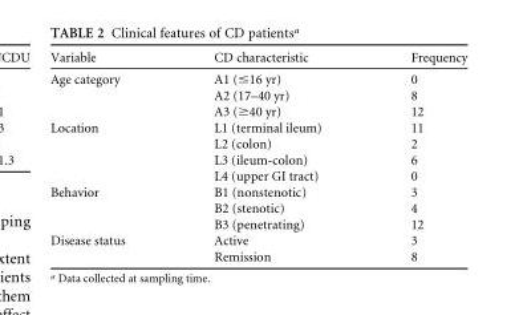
<table><thead><tr><td>Variable</td><td>CD characteristic</td><td>Frequency</td></tr></thead><tbody><tr><td rowspan="3">Age category</td><td>A1 (≤16 yr)</td><td>0</td></tr><tr><td>A2 (17–40 yr)</td><td>8</td></tr><tr><td>A3 (≥40 yr)</td><td>12</td></tr><tr><td rowspan="4">Location</td><td>L1 (terminal ileum)</td><td>11</td></tr><tr><td>L2 (colon)</td><td>2</td></tr><tr><td>L3 (ileum-colon)</td><td>6</td></tr><tr><td>L4 (upper GI tract)</td><td>0</td></tr><tr><td rowspan="3">Behavior</td><td>B1 (nonstenotic)</td><td>3</td></tr><tr><td>B2 (stenotic)</td><td>4</td></tr><tr><td>B3 (penetrating)</td><td>12</td></tr><tr><td rowspan="2">Disease status</td><td>Active</td><td>3</td></tr><tr><td>Remission</td><td>8</td></tr></tbody></table>